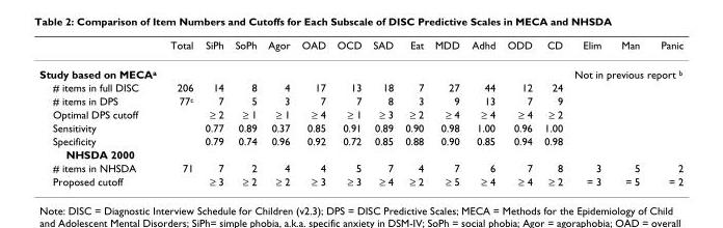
<table><thead><tr><td></td><td>Total</td><td>SiPh</td><td>SoPh</td><td>Agor</td><td>OAD</td><td>OCD</td><td>SAD</td><td>Eat</td><td>MDD</td><td>Adhd</td><td>ODD</td><td>CD</td><td>Elim</td><td>Man</td><td>Panic</td></tr></thead><tbody><tr><td>Study based on MECA<sup>a</sup></td><td></td><td></td><td></td><td></td><td></td><td></td><td></td><td></td><td></td><td></td><td></td><td></td><td colspan="3">Not in previous report <sup>b</sup></td></tr><tr><td># items in full DISC</td><td>206</td><td>14</td><td>8</td><td>4</td><td>17</td><td>13</td><td>18</td><td>7</td><td>27</td><td>44</td><td>12</td><td>24</td><td></td><td></td><td></td></tr><tr><td># items in DPS</td><td>77<sup>c</sup></td><td>7</td><td>5</td><td>3</td><td>7</td><td>7</td><td>8</td><td>3</td><td>9</td><td>13</td><td>7</td><td>9</td><td></td><td></td><td></td></tr><tr><td>Optimal DPS cutoff</td><td></td><td>≥ 2</td><td>≥ 1</td><td>≥ 1</td><td>≥ 4</td><td>≥ 1</td><td>≥ 3</td><td>≥ 2</td><td>≥ 4</td><td>≥ 4</td><td>≥ 4</td><td>≥ 2</td><td></td><td></td><td></td></tr><tr><td>Sensitivity</td><td></td><td>0.77</td><td>0.89</td><td>0.37</td><td>0.85</td><td>0.91</td><td>0.89</td><td>0.90</td><td>0.98</td><td>1.00</td><td>0.96</td><td>1.00</td><td></td><td></td><td></td></tr><tr><td>Specificity</td><td></td><td>0.79</td><td>0.74</td><td>0.96</td><td>0.92</td><td>0.72</td><td>0.85</td><td>0.88</td><td>0.90</td><td>0.85</td><td>0.94</td><td>0.98</td><td></td><td></td><td></td></tr><tr><td colspan="16">NHSDA 2000</td></tr><tr><td># items in NHSDA</td><td>71</td><td>7</td><td>2</td><td>4</td><td>4</td><td>5</td><td>7</td><td>4</td><td>7</td><td>6</td><td>7</td><td>8</td><td>3</td><td>5</td><td>2</td></tr><tr><td>Proposed cutoff</td><td></td><td>≥ 3</td><td>≥ 2</td><td>≥ 2</td><td>≥ 3</td><td>≥ 3</td><td>≥ 4</td><td>≥ 2</td><td>≥ 5</td><td>≥ 4</td><td>≥ 4</td><td>≥ 2</td><td>= 3</td><td>= 5</td><td>= 2</td></tr></tbody></table>